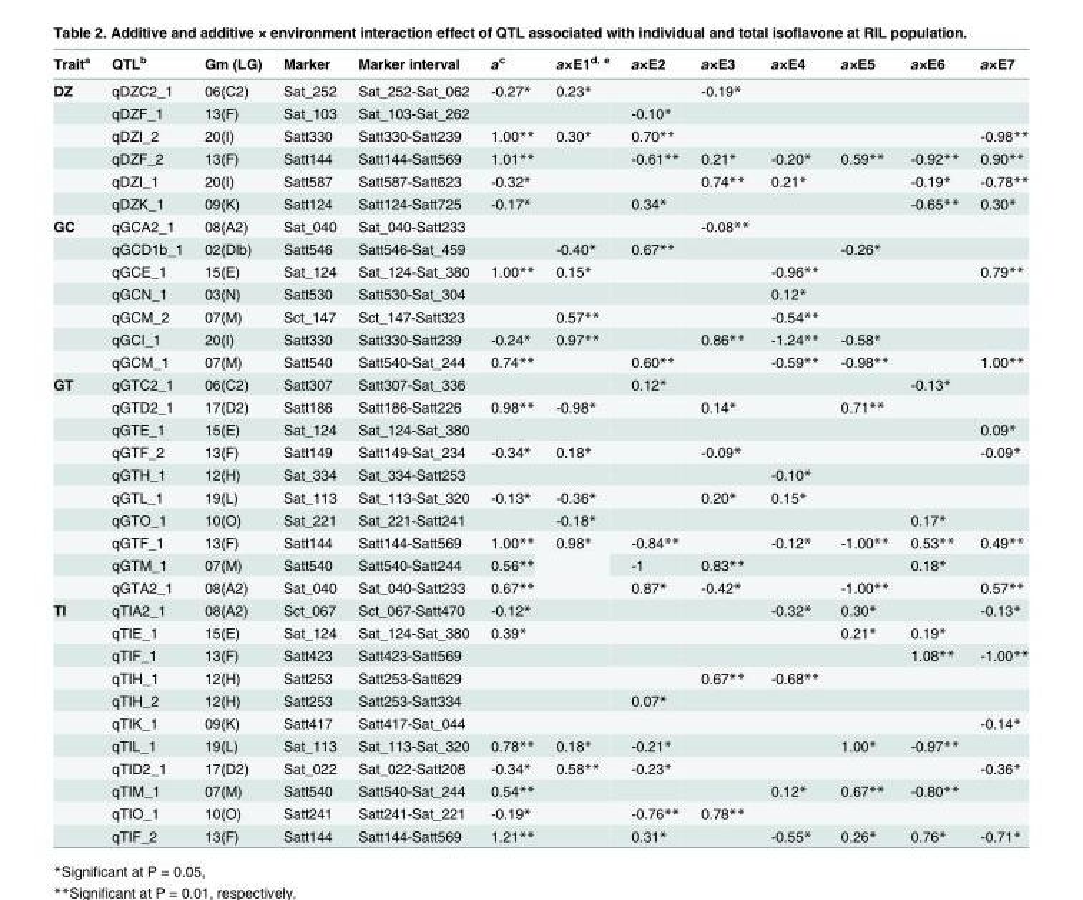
<table><thead><tr><td>Trait<sup>a</sup></td><td>QTL<sup>b</sup></td><td>Gm (LG)</td><td>Marker</td><td>Marker interval</td><td>a<sup>c</sup></td><td>a×E1<sup>d, e</sup></td><td>a×E2</td><td>a×E3</td><td>a×E4</td><td>a×E5</td><td>a×E6</td><td>a×E7</td></tr></thead><tbody><tr><td rowspan="6">DZ</td><td>qDZC2_1</td><td>06(C2)</td><td>Sat_252</td><td>Sat_252-Sat_062</td><td>-0.27*</td><td>0.23*</td><td></td><td>-0.19*</td><td></td><td></td><td></td><td></td></tr><tr><td>qDZF_1</td><td>13(F)</td><td>Sat_103</td><td>Sat_103-Sat_262</td><td></td><td></td><td>-0.10*</td><td></td><td></td><td></td><td></td><td></td></tr><tr><td>qDZI_2</td><td>20(I)</td><td>Satt330</td><td>Satt330-Satt239</td><td>1.00**</td><td>0.30*</td><td>0.70**</td><td></td><td></td><td></td><td></td><td>-0.98**</td></tr><tr><td>qDZF_2</td><td>13(F)</td><td>Satt144</td><td>Satt144-Satt569</td><td>1.01**</td><td></td><td>-0.61**</td><td>0.21*</td><td>-0.20*</td><td>0.59**</td><td>-0.92**</td><td>0.90**</td></tr><tr><td>qDZI_1</td><td>20(I)</td><td>Satt587</td><td>Satt587-Satt623</td><td>-0.32*</td><td></td><td></td><td>0.74**</td><td>0.21*</td><td></td><td>-0.19*</td><td>-0.78**</td></tr><tr><td>qDZK_1</td><td>09(K)</td><td>Satt124</td><td>Satt124-Satt725</td><td>-0.17*</td><td></td><td>0.34*</td><td></td><td></td><td></td><td>-0.65**</td><td>0.30*</td></tr><tr><td rowspan="7">GC</td><td>qGCA2_1</td><td>08(A2)</td><td>Sat_040</td><td>Sat_040-Satt233</td><td></td><td></td><td></td><td>-0.08**</td><td></td><td></td><td></td><td></td></tr><tr><td>qGCD1b_1</td><td>02(Dlb)</td><td>Satt546</td><td>Satt546-Sat_459</td><td></td><td>-0.40*</td><td>0.67**</td><td></td><td></td><td>-0.26*</td><td></td><td></td></tr><tr><td>qGCE_1</td><td>15(E)</td><td>Sat_124</td><td>Sat_124-Sat_380</td><td>1.00**</td><td>0.15*</td><td></td><td></td><td>-0.96**</td><td></td><td></td><td>0.79**</td></tr><tr><td>qGCN_1</td><td>03(N)</td><td>Satt530</td><td>Satt530-Sat_304</td><td></td><td></td><td></td><td></td><td>0.12*</td><td></td><td></td><td></td></tr><tr><td>qGCM_2</td><td>07(M)</td><td>Sct_147</td><td>Sct_147-Satt323</td><td></td><td>0.57**</td><td></td><td></td><td>-0.54**</td><td></td><td></td><td></td></tr><tr><td>qGCI_1</td><td>20(I)</td><td>Satt330</td><td>Satt330-Satt239</td><td>-0.24*</td><td>0.97**</td><td></td><td>0.86**</td><td>-1.24**</td><td>-0.58*</td><td></td><td></td></tr><tr><td>qGCM_1</td><td>07(M)</td><td>Satt540</td><td>Satt540-Sat_244</td><td>0.74**</td><td></td><td>0.60**</td><td></td><td>-0.59**</td><td>-0.98**</td><td></td><td>1.00**</td></tr><tr><td rowspan="10">GT</td><td>qGTC2_1</td><td>06(C2)</td><td>Satt307</td><td>Satt307-Sat_336</td><td></td><td></td><td>0.12*</td><td></td><td></td><td></td><td>-0.13*</td><td></td></tr><tr><td>qGTD2_1</td><td>17(D2)</td><td>Satt186</td><td>Satt186-Satt226</td><td>0.98**</td><td>-0.98*</td><td></td><td>0.14*</td><td></td><td>0.71**</td><td></td><td></td></tr><tr><td>qGTE_1</td><td>15(E)</td><td>Sat_124</td><td>Sat_124-Sat_380</td><td></td><td></td><td></td><td></td><td></td><td></td><td></td><td>0.09*</td></tr><tr><td>qGTF_2</td><td>13(F)</td><td>Satt149</td><td>Satt149-Sat_234</td><td>-0.34*</td><td>0.18*</td><td></td><td>-0.09*</td><td></td><td></td><td></td><td>-0.09*</td></tr><tr><td>qGTH_1</td><td>12(H)</td><td>Sat_334</td><td>Sat_334-Satt253</td><td></td><td></td><td></td><td></td><td>-0.10*</td><td></td><td></td><td></td></tr><tr><td>qGTL_1</td><td>19(L)</td><td>Sat_113</td><td>Sat_113-Sat_320</td><td>-0.13*</td><td>-0.36*</td><td></td><td>0.20*</td><td>0.15*</td><td></td><td></td><td></td></tr><tr><td>qGTO_1</td><td>10(O)</td><td>Sat_221</td><td>Sat_221-Satt241</td><td></td><td>-0.18*</td><td></td><td></td><td></td><td></td><td>0.17*</td><td></td></tr><tr><td>qGTF_1</td><td>13(F)</td><td>Satt144</td><td>Satt144-Satt569</td><td>1.00**</td><td rowspan="3">0.98*</td><td>-0.84**</td><td></td><td>-0.12*</td><td>-1.00**</td><td>0.53**</td><td>0.49**</td></tr><tr><td>qGTM_1</td><td>07(M)</td><td>Satt540</td><td>Satt540-Satt244</td><td>0.56**</td><td>-1</td><td>0.83**</td><td></td><td></td><td>0.18*</td><td></td></tr><tr><td>qGTA2_1</td><td>08(A2)</td><td>Sat_040</td><td>Sat_040-Satt233</td><td>0.67**</td><td>0.87*</td><td>-0.42*</td><td></td><td>-1.00**</td><td></td><td>0.57**</td></tr><tr><td rowspan="11">TI</td><td>qTIA2_1</td><td>08(A2)</td><td>Sct_067</td><td>Sct_067-Satt470</td><td>-0.12*</td><td></td><td></td><td></td><td>-0.32*</td><td>0.30*</td><td></td><td>-0.13*</td></tr><tr><td>qTIE_1</td><td>15(E)</td><td>Sat_124</td><td>Sat_124-Sat_380</td><td>0.39*</td><td></td><td></td><td></td><td></td><td>0.21*</td><td>0.19*</td><td></td></tr><tr><td>qTIF_1</td><td>13(F)</td><td>Satt423</td><td>Satt423-Satt569</td><td></td><td></td><td></td><td></td><td></td><td></td><td>1.08**</td><td>-1.00**</td></tr><tr><td>qTIH_1</td><td>12(H)</td><td>Satt253</td><td>Satt253-Satt629</td><td></td><td></td><td></td><td>0.67**</td><td>-0.68**</td><td></td><td></td><td></td></tr><tr><td>qTIH_2</td><td>12(H)</td><td>Satt253</td><td>Satt253-Satt334</td><td></td><td></td><td>0.07*</td><td></td><td></td><td></td><td></td><td></td></tr><tr><td>qTIK_1</td><td>09(K)</td><td>Satt417</td><td>Satt417-Sat_044</td><td></td><td></td><td></td><td></td><td></td><td></td><td></td><td>-0.14*</td></tr><tr><td>qTIL_1</td><td>19(L)</td><td>Sat_113</td><td>Sat_113-Sat_320</td><td>0.78**</td><td>0.18*</td><td>-0.21*</td><td></td><td></td><td>1.00*</td><td>-0.97**</td><td></td></tr><tr><td>qTID2_1</td><td>17(D2)</td><td>Sat_022</td><td>Sat_022-Satt208</td><td>-0.34*</td><td>0.58**</td><td>-0.23*</td><td></td><td></td><td></td><td></td><td>-0.36*</td></tr><tr><td>qTIM_1</td><td>07(M)</td><td>Satt540</td><td>Satt540-Sat_244</td><td>0.54**</td><td></td><td></td><td></td><td>0.12*</td><td>0.67**</td><td>-0.80**</td><td></td></tr><tr><td>qTIO_1</td><td>10(O)</td><td>Satt241</td><td>Satt241-Sat_221</td><td>-0.19*</td><td></td><td>-0.76**</td><td>0.78**</td><td></td><td></td><td></td><td></td></tr><tr><td>qTIF_2</td><td>13(F)</td><td>Satt144</td><td>Satt144-Satt569</td><td>1.21**</td><td></td><td>0.31*</td><td></td><td>-0.55*</td><td>0.26*</td><td>0.76*</td><td>-0.71*</td></tr></tbody></table>